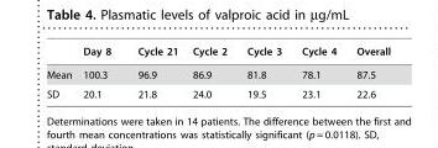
<table><thead><tr><td></td><td>Day 8</td><td>Cycle 21</td><td>Cycle 2</td><td>Cycle 3</td><td>Cycle 4</td><td>Overall</td></tr></thead><tbody><tr><td>Mean</td><td>100.3</td><td>96.9</td><td>86.9</td><td>81.8</td><td>78.1</td><td>87.5</td></tr><tr><td>SD</td><td>20.1</td><td>21.8</td><td>24.0</td><td>19.5</td><td>23.1</td><td>22.6</td></tr></tbody></table>